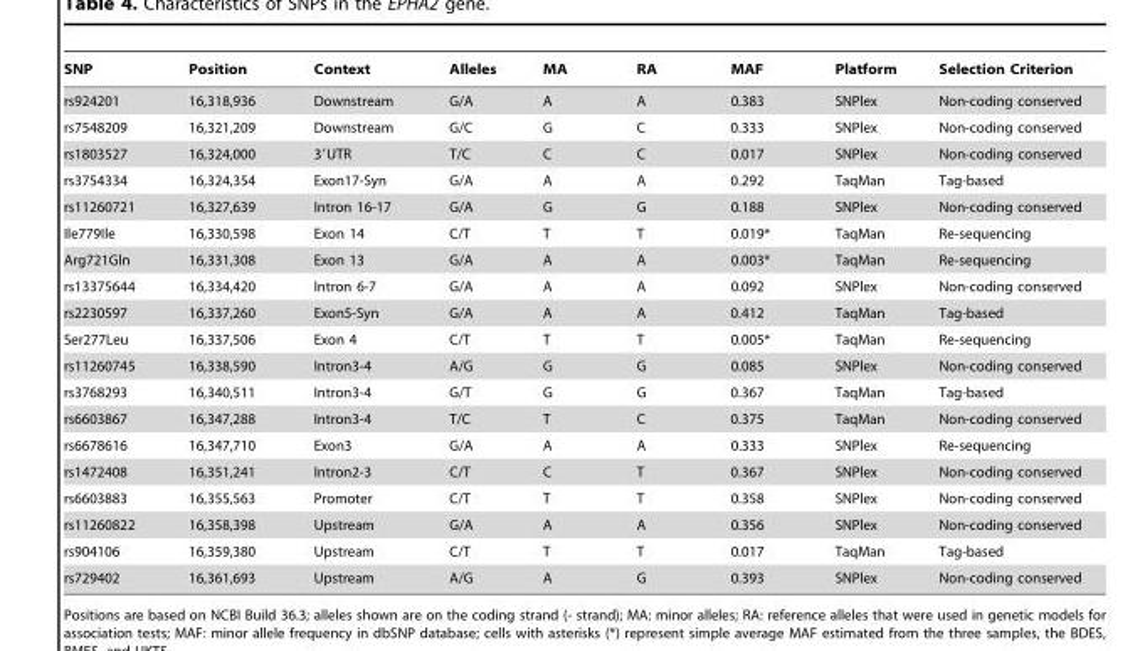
<table><thead><tr><td>SNP</td><td>Position</td><td>Context</td><td>Alleles</td><td>MA</td><td>RA</td><td>MAF</td><td>Platform</td><td>Selection Criterion</td></tr></thead><tbody><tr><td>rs924201</td><td>16,318,936</td><td>Downstream</td><td>G/A</td><td>A</td><td>A</td><td>0.383</td><td>SNPlex</td><td>Non-coding conserved</td></tr><tr><td>rs7548209</td><td>16,321,209</td><td>Downstream</td><td>G/C</td><td>G</td><td>C</td><td>0.333</td><td>SNPlex</td><td>Non-coding conserved</td></tr><tr><td>rs1803527</td><td>16,324,000</td><td>3′UTR</td><td>T/C</td><td>C</td><td>C</td><td>0.017</td><td>SNPlex</td><td>Non-coding conserved</td></tr><tr><td>rs3754334</td><td>16,324,354</td><td>Exon17-Syn</td><td>G/A</td><td>A</td><td>A</td><td>0.292</td><td>TaqMan</td><td>Tag-based</td></tr><tr><td>rs11260721</td><td>16,327,639</td><td>Intron 16-17</td><td>G/A</td><td>G</td><td>G</td><td>0.188</td><td>SNPlex</td><td>Non-coding conserved</td></tr><tr><td>Ile779Ile</td><td>16,330,598</td><td>Exon 14</td><td>C/T</td><td>T</td><td>T</td><td>0.019*</td><td>TaqMan</td><td>Re-sequencing</td></tr><tr><td>Arg721Gln</td><td>16,331,308</td><td>Exon 13</td><td>G/A</td><td>A</td><td>A</td><td>0.003*</td><td>TaqMan</td><td>Re-sequencing</td></tr><tr><td>rs13375644</td><td>16,334,420</td><td>Intron 6-7</td><td>G/A</td><td>A</td><td>A</td><td>0.092</td><td>SNPlex</td><td>Non-coding conserved</td></tr><tr><td>rs2230597</td><td>16,337,260</td><td>Exon5-Syn</td><td>G/A</td><td>A</td><td>A</td><td>0.412</td><td>TaqMan</td><td>Tag-based</td></tr><tr><td>Ser277Leu</td><td>16,337,506</td><td>Exon 4</td><td>C/T</td><td>T</td><td>T</td><td>0.005*</td><td>TaqMan</td><td>Re-sequencing</td></tr><tr><td>rs11260745</td><td>16,338,590</td><td>Intron3-4</td><td>A/G</td><td>G</td><td>G</td><td>0.085</td><td>SNPlex</td><td>Non-coding conserved</td></tr><tr><td>rs3768293</td><td>16,340,511</td><td>Intron3-4</td><td>G/T</td><td>G</td><td>G</td><td>0.367</td><td>TaqMan</td><td>Tag-based</td></tr><tr><td>rs6603867</td><td>16,347,288</td><td>Intron3-4</td><td>T/C</td><td>T</td><td>C</td><td>0.375</td><td>TaqMan</td><td>Non-coding conserved</td></tr><tr><td>rs6678616</td><td>16,347,710</td><td>Exon3</td><td>G/A</td><td>A</td><td>A</td><td>0.333</td><td>SNPlex</td><td>Re-sequencing</td></tr><tr><td>rs1472408</td><td>16,351,241</td><td>Intron2-3</td><td>C/T</td><td>C</td><td>T</td><td>0.367</td><td>SNPlex</td><td>Non-coding conserved</td></tr><tr><td>rs6603883</td><td>16,355,563</td><td>Promoter</td><td>C/T</td><td>T</td><td>T</td><td>0.358</td><td>SNPlex</td><td>Non-coding conserved</td></tr><tr><td>rs11260822</td><td>16,358,398</td><td>Upstream</td><td>G/A</td><td>A</td><td>A</td><td>0.356</td><td>SNPlex</td><td>Non-coding conserved</td></tr><tr><td>rs904106</td><td>16,359,380</td><td>Upstream</td><td>C/T</td><td>T</td><td>T</td><td>0.017</td><td>TaqMan</td><td>Tag-based</td></tr><tr><td>rs729402</td><td>16,361,693</td><td>Upstream</td><td>A/G</td><td>A</td><td>G</td><td>0.393</td><td>SNPlex</td><td>Non-coding conserved</td></tr></tbody></table>